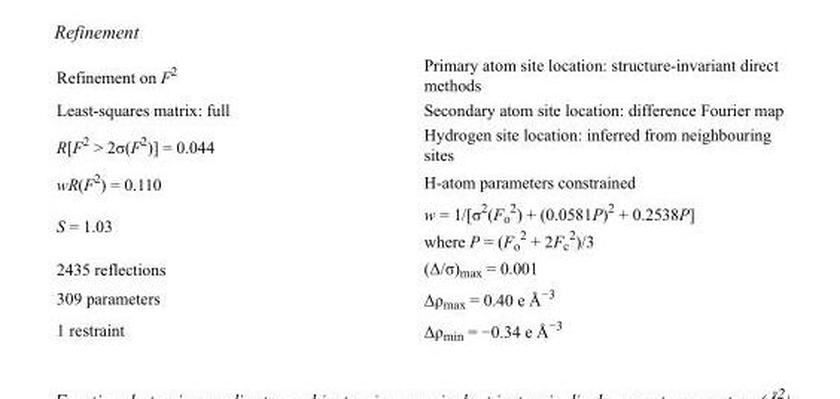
<table><tbody><tr><td>Refinement on F<sup>2</sup></td><td>Primary atom site location: structure-invariant direct methods</td></tr><tr><td>Least-squares matrix: full</td><td>Secondary atom site location: difference Fourier map</td></tr><tr><td>R[F<sup>2</sup> &gt; 2σ(F<sup>2</sup>)] = 0.044</td><td>Hydrogen site location: inferred from neighbouring sites</td></tr><tr><td>wR(F<sup>2</sup>) = 0.110</td><td>H-atom parameters constrained</td></tr><tr><td>S = 1.03</td><td>w = 1/[σ<sup>2</sup>(F<sub>o</sub> <sup>2</sup>) + (0.0581P)<sup>2</sup> + 0.2538P] where P = (F<sub>o</sub> <sup>2</sup> + 2F<sub>c</sub> <sup>2</sup>)/3</td></tr><tr><td>2435 reflections</td><td>(Δ/σ)<sub>max</sub> = 0.001</td></tr><tr><td>309 parameters</td><td>Δρ<sub>max</sub> = 0.40 e Å<sup>−3</sup></td></tr><tr><td>1 restraint</td><td>Δρ<sub>min</sub> = −0.34 e Å<sup>−3</sup></td></tr></tbody></table>